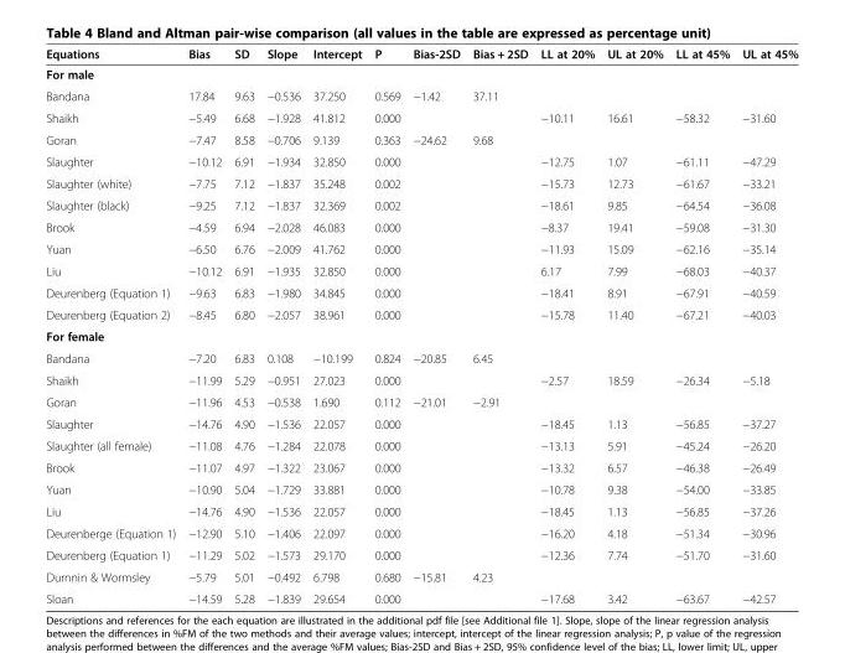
<table><thead><tr><td>Equations</td><td>Bias</td><td>SD</td><td>Slope</td><td>Intercept</td><td>P</td><td>Bias-2SD</td><td>Bias + 2SD</td><td>LL at 20%</td><td>UL at 20%</td><td>LL at 45%</td><td>UL at 45%</td></tr></thead><tbody><tr><td colspan="12">For male</td></tr><tr><td>Bandana</td><td>17.84</td><td>9.63</td><td>−0.536</td><td>37.250</td><td>0.569</td><td>−1.42</td><td>37.11</td><td></td><td></td><td></td><td></td></tr><tr><td>Shaikh</td><td>−5.49</td><td>6.68</td><td>−1.928</td><td>41.812</td><td>0.000</td><td></td><td></td><td>−10.11</td><td>16.61</td><td>−58.32</td><td>−31.60</td></tr><tr><td>Goran</td><td>−7.47</td><td>8.58</td><td>−0.706</td><td>9.139</td><td>0.363</td><td>−24.62</td><td>9.68</td><td></td><td></td><td></td><td></td></tr><tr><td>Slaughter</td><td>−10.12</td><td>6.91</td><td>−1.934</td><td>32.850</td><td>0.000</td><td></td><td></td><td>−12.75</td><td>1.07</td><td>−61.11</td><td>−47.29</td></tr><tr><td>Slaughter (white)</td><td>−7.75</td><td>7.12</td><td>−1.837</td><td>35.248</td><td>0.002</td><td></td><td></td><td>−15.73</td><td>12.73</td><td>−61.67</td><td>−33.21</td></tr><tr><td>Slaughter (black)</td><td>−9.25</td><td>7.12</td><td>−1.837</td><td>32.369</td><td>0.002</td><td></td><td></td><td>−18.61</td><td>9.85</td><td>−64.54</td><td>−36.08</td></tr><tr><td>Brook</td><td>−4.59</td><td>6.94</td><td>−2.028</td><td>46.083</td><td>0.000</td><td></td><td></td><td>−8.37</td><td>19.41</td><td>−59.08</td><td>−31.30</td></tr><tr><td>Yuan</td><td>−6.50</td><td>6.76</td><td>−2.009</td><td>41.762</td><td>0.000</td><td></td><td></td><td>−11.93</td><td>15.09</td><td>−62.16</td><td>−35.14</td></tr><tr><td>Liu</td><td>−10.12</td><td>6.91</td><td>−1.935</td><td>32.850</td><td>0.000</td><td></td><td></td><td>6.17</td><td>7.99</td><td>−68.03</td><td>−40.37</td></tr><tr><td>Deurenberg (Equation 1)</td><td>−9.63</td><td>6.83</td><td>−1.980</td><td>34.845</td><td>0.000</td><td></td><td></td><td>−18.41</td><td>8.91</td><td>−67.91</td><td>−40.59</td></tr><tr><td>Deurenberg (Equation 2)</td><td>−8.45</td><td>6.80</td><td>−2.057</td><td>38.961</td><td>0.000</td><td></td><td></td><td>−15.78</td><td>11.40</td><td>−67.21</td><td>−40.03</td></tr><tr><td colspan="12">For female</td></tr><tr><td>Bandana</td><td>−7.20</td><td>6.83</td><td>0.108</td><td>−10.199</td><td>0.824</td><td>−20.85</td><td>6.45</td><td></td><td></td><td></td><td></td></tr><tr><td>Shaikh</td><td>−11.99</td><td>5.29</td><td>−0.951</td><td>27.023</td><td>0.000</td><td></td><td></td><td>−2.57</td><td>18.59</td><td>−26.34</td><td>−5.18</td></tr><tr><td>Goran</td><td>−11.96</td><td>4.53</td><td>−0.538</td><td>1.690</td><td>0.112</td><td>−21.01</td><td>−2.91</td><td></td><td></td><td></td><td></td></tr><tr><td>Slaughter</td><td>−14.76</td><td>4.90</td><td>−1.536</td><td>22.057</td><td>0.000</td><td></td><td></td><td>−18.45</td><td>1.13</td><td>−56.85</td><td>−37.27</td></tr><tr><td>Slaughter (all female)</td><td>−11.08</td><td>4.76</td><td>−1.284</td><td>22.078</td><td>0.000</td><td></td><td></td><td>−13.13</td><td>5.91</td><td>−45.24</td><td>−26.20</td></tr><tr><td>Brook</td><td>−11.07</td><td>4.97</td><td>−1.322</td><td>23.067</td><td>0.000</td><td></td><td></td><td>−13.32</td><td>6.57</td><td>−46.38</td><td>−26.49</td></tr><tr><td>Yuan</td><td>−10.90</td><td>5.04</td><td>−1.729</td><td>33.881</td><td>0.000</td><td></td><td></td><td>−10.78</td><td>9.38</td><td>−54.00</td><td>−33.85</td></tr><tr><td>Liu</td><td>−14.76</td><td>4.90</td><td>−1.536</td><td>22.057</td><td>0.000</td><td></td><td></td><td>−18.45</td><td>1.13</td><td>−56.85</td><td>−37.26</td></tr><tr><td>Deurenberge (Equation 1)</td><td>−12.90</td><td>5.10</td><td>−1.406</td><td>22.097</td><td>0.000</td><td></td><td></td><td>−16.20</td><td>4.18</td><td>−51.34</td><td>−30.96</td></tr><tr><td>Deurenberg (Equation 1)</td><td>−11.29</td><td>5.02</td><td>−1.573</td><td>29.170</td><td>0.000</td><td></td><td></td><td>−12.36</td><td>7.74</td><td>−51.70</td><td>−31.60</td></tr><tr><td>Durnnin &amp; Wormsley</td><td>−5.79</td><td>5.01</td><td>−0.492</td><td>6.798</td><td>0.680</td><td>−15.81</td><td>4.23</td><td></td><td></td><td></td><td></td></tr><tr><td>Sloan</td><td>−14.59</td><td>5.28</td><td>−1.839</td><td>29.654</td><td>0.000</td><td></td><td></td><td>−17.68</td><td>3.42</td><td>−63.67</td><td>−42.57</td></tr></tbody></table>